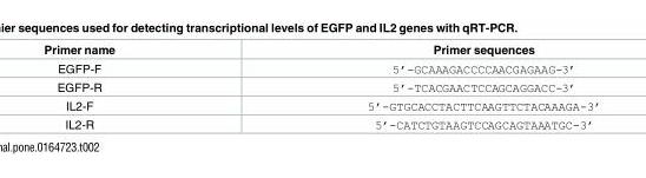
<table><thead><tr><td>Primer name</td><td>Primer sequences</td></tr></thead><tbody><tr><td>EGFP-F</td><td>5’-GCAAAGACCCCAACGAGAAG-3’</td></tr><tr><td>EGFP-R</td><td>5’-TCACGAACTCCAGCAGGACC-3’</td></tr><tr><td>IL2-F</td><td>5’-GTGCACCTACTTCAAGTTCTACAAAGA-3’</td></tr><tr><td>IL2-R</td><td>5’-CATCTGTAAGTCCAGCAGTAAATGC-3’</td></tr></tbody></table>